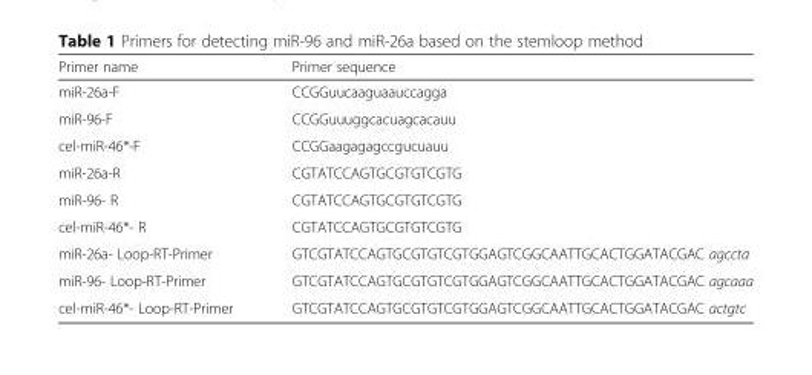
<table><thead><tr><td>Primer name</td><td>Primer sequence</td></tr></thead><tbody><tr><td>miR-26a-F</td><td>CCGGuucaaguaauccagga</td></tr><tr><td>miR-96-F</td><td>CCGGuuuggcacuagcacauu</td></tr><tr><td>cel-miR-46*-F</td><td>CCGGaagagagccgucuauu</td></tr><tr><td>miR-26a-R</td><td>CGTATCCAGTGCGTGTCGTG</td></tr><tr><td>miR-96- R</td><td>CGTATCCAGTGCGTGTCGTG</td></tr><tr><td>cel-miR-46*- R</td><td>CGTATCCAGTGCGTGTCGTG</td></tr><tr><td>miR-26a- Loop-RT-Primer</td><td>GTCGTATCCAGTGCGTGTCGTGGAGTCGGCAATTGCACTGGATACGAC agccta</td></tr><tr><td>miR-96- Loop-RT-Primer</td><td>GTCGTATCCAGTGCGTGTCGTGGAGTCGGCAATTGCACTGGATACGAC agcaaa</td></tr><tr><td>cel-miR-46*- Loop-RT-Primer</td><td>GTCGTATCCAGTGCGTGTCGTGGAGTCGGCAATTGCACTGGATACGAC actgtc</td></tr></tbody></table>